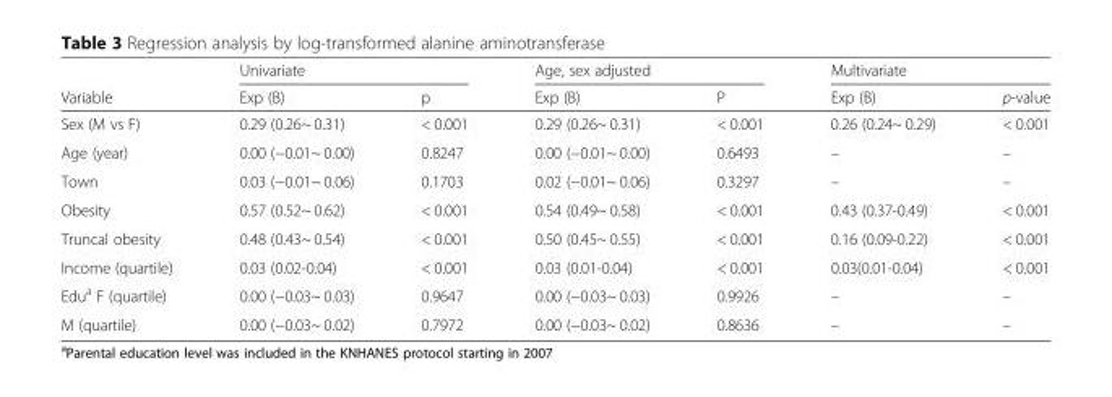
<table><thead><tr><td rowspan="2">Variable</td><td colspan="2">Univariate</td><td colspan="2">Age, sex adjusted</td><td colspan="2">Multivariate</td></tr><tr><td>Exp (B)</td><td>p</td><td>Exp (B)</td><td>P</td><td>Exp (B)</td><td>p-value</td></tr></thead><tbody><tr><td>Sex (M vs F)</td><td>0.29 (0.26~ 0.31)</td><td>&lt; 0.001</td><td>0.29 (0.26~ 0.31)</td><td>&lt; 0.001</td><td>0.26 (0.24~ 0.29)</td><td>&lt; 0.001</td></tr><tr><td>Age (year)</td><td>0.00 (−0.01~ 0.00)</td><td>0.8247</td><td>0.00 (−0.01~ 0.00)</td><td>0.6493</td><td>–</td><td>–</td></tr><tr><td>Town</td><td>0.03 (−0.01~ 0.06)</td><td>0.1703</td><td>0.02 (−0.01~ 0.06)</td><td>0.3297</td><td>–</td><td>–</td></tr><tr><td>Obesity</td><td>0.57 (0.52~ 0.62)</td><td>&lt; 0.001</td><td>0.54 (0.49~ 0.58)</td><td>&lt; 0.001</td><td>0.43 (0.37-0.49)</td><td>&lt; 0.001</td></tr><tr><td>Truncal obesity</td><td>0.48 (0.43~ 0.54)</td><td>&lt; 0.001</td><td>0.50 (0.45~ 0.55)</td><td>&lt; 0.001</td><td>0.16 (0.09-0.22)</td><td>&lt; 0.001</td></tr><tr><td>Income (quartile)</td><td>0.03 (0.02-0.04)</td><td>&lt; 0.001</td><td>0.03 (0.01-0.04)</td><td>&lt; 0.001</td><td>0.03(0.01-0.04)</td><td>&lt; 0.001</td></tr><tr><td>Edu<sup>a</sup> F (quartile)</td><td>0.00 (−0.03~ 0.03)</td><td>0.9647</td><td>0.00 (−0.03~ 0.03)</td><td>0.9926</td><td>–</td><td>–</td></tr><tr><td>M (quartile)</td><td>0.00 (−0.03~ 0.02)</td><td>0.7972</td><td>0.00 (−0.03~ 0.02)</td><td>0.8636</td><td>–</td><td>–</td></tr></tbody></table>